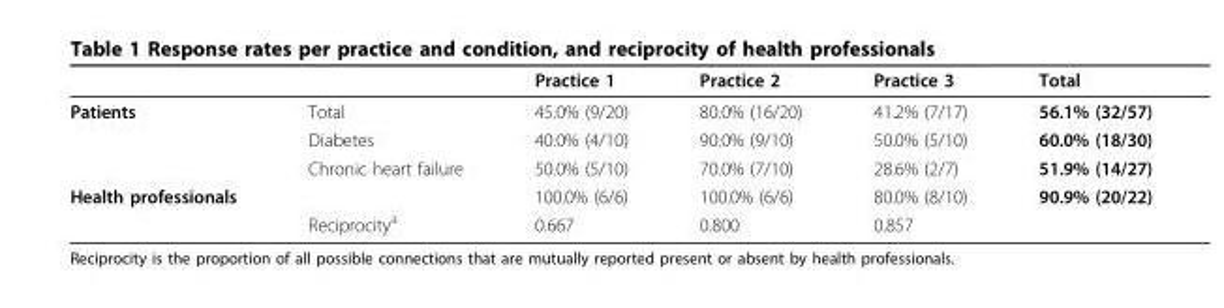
<table><thead><tr><td></td><td></td><td>Practice 1</td><td>Practice 2</td><td>Practice 3</td><td>Total</td></tr></thead><tbody><tr><td rowspan="3">Patients</td><td>Total</td><td>45.0% (9/20)</td><td>80.0% (16/20)</td><td>41.2% (7/17)</td><td>56.1% (32/57)</td></tr><tr><td>Diabetes</td><td>40.0% (4/10)</td><td>90.0% (9/10)</td><td>50.0% (5/10)</td><td>60.0% (18/30)</td></tr><tr><td>Chronic heart failure</td><td>50.0% (5/10)</td><td>70.0% (7/10)</td><td>28.6% (2/7)</td><td>51.9% (14/27)</td></tr><tr><td rowspan="2">Health professionals</td><td></td><td>100.0% (6/6)</td><td>100.0% (6/6)</td><td>80.0% (8/10)</td><td>90.9% (20/22)</td></tr><tr><td>Reciprocity<sup>a</sup></td><td>0.667</td><td>0.800</td><td>0.857</td><td></td></tr></tbody></table>